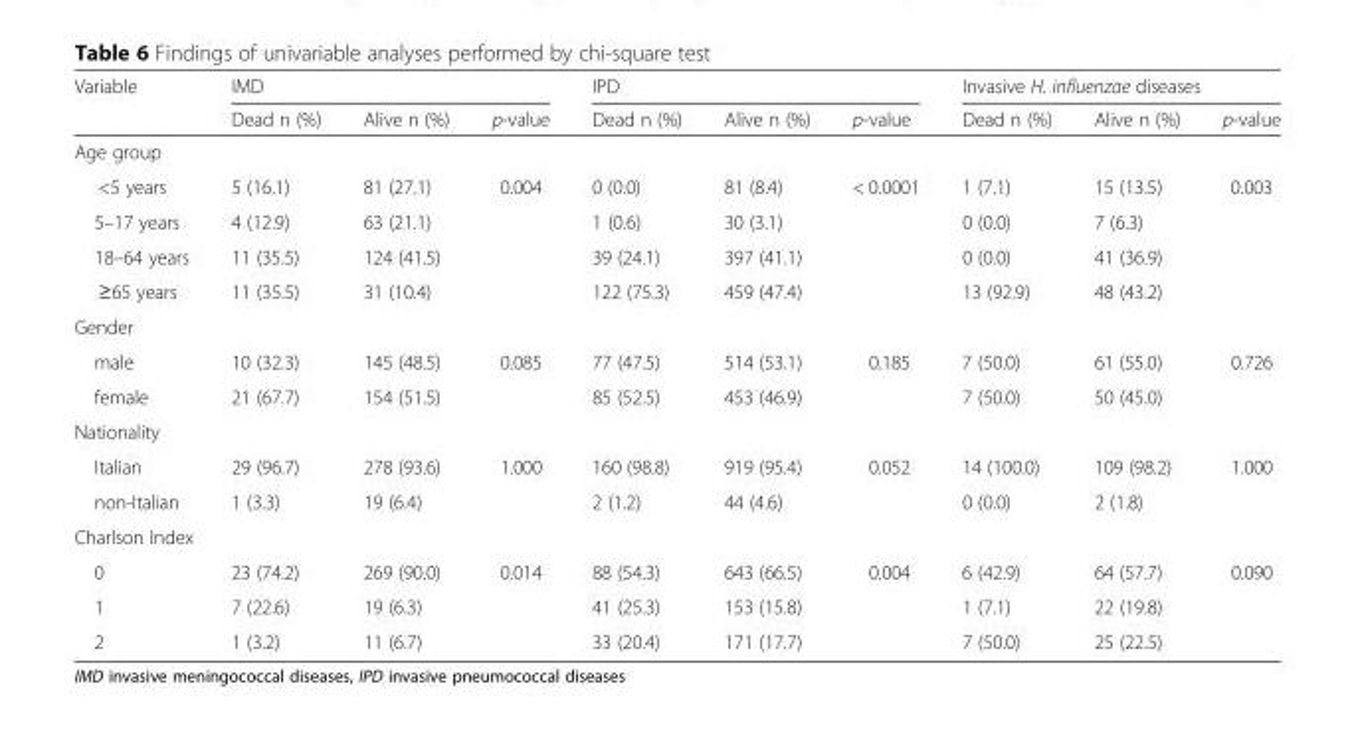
<table><thead><tr><td rowspan="2">Variable</td><td colspan="3">IMD</td><td colspan="3">IPD</td><td colspan="3">Invasive H. influenzae diseases</td></tr><tr><td>Dead n (%)</td><td>Alive n (%)</td><td>p-value</td><td>Dead n (%)</td><td>Alive n (%)</td><td>p-value</td><td>Dead n (%)</td><td>Alive n (%)</td><td>p-value</td></tr></thead><tbody><tr><td colspan="10">Age group</td></tr><tr><td>&lt;5 years</td><td>5 (16.1)</td><td>81 (27.1)</td><td rowspan="4">0.004</td><td>0 (0.0)</td><td>81 (8.4)</td><td rowspan="4">&lt; 0.0001</td><td>1 (7.1)</td><td>15 (13.5)</td><td rowspan="4">0.003</td></tr><tr><td>5–17 years</td><td>4 (12.9)</td><td>63 (21.1)</td><td>1 (0.6)</td><td>30 (3.1)</td><td>0 (0.0)</td><td>7 (6.3)</td></tr><tr><td>18–64 years</td><td>11 (35.5)</td><td>124 (41.5)</td><td>39 (24.1)</td><td>397 (41.1)</td><td>0 (0.0)</td><td>41 (36.9)</td></tr><tr><td>≥65 years</td><td>11 (35.5)</td><td>31 (10.4)</td><td>122 (75.3)</td><td>459 (47.4)</td><td>13 (92.9)</td><td>48 (43.2)</td></tr><tr><td colspan="10">Gender</td></tr><tr><td>male</td><td>10 (32.3)</td><td>145 (48.5)</td><td rowspan="2">0.085</td><td>77 (47.5)</td><td>514 (53.1)</td><td rowspan="2">0.185</td><td>7 (50.0)</td><td>61 (55.0)</td><td rowspan="2">0.726</td></tr><tr><td>female</td><td>21 (67.7)</td><td>154 (51.5)</td><td>85 (52.5)</td><td>453 (46.9)</td><td>7 (50.0)</td><td>50 (45.0)</td></tr><tr><td colspan="10">Nationality</td></tr><tr><td>Italian</td><td>29 (96.7)</td><td>278 (93.6)</td><td rowspan="2">1.000</td><td>160 (98.8)</td><td>919 (95.4)</td><td rowspan="2">0.052</td><td>14 (100.0)</td><td>109 (98.2)</td><td rowspan="2">1.000</td></tr><tr><td>non-Italian</td><td>1 (3.3)</td><td>19 (6.4)</td><td>2 (1.2)</td><td>44 (4.6)</td><td>0 (0.0)</td><td>2 (1.8)</td></tr><tr><td colspan="10">Charlson Index</td></tr><tr><td>0</td><td>23 (74.2)</td><td>269 (90.0)</td><td rowspan="3">0.014</td><td>88 (54.3)</td><td>643 (66.5)</td><td rowspan="3">0.004</td><td>6 (42.9)</td><td>64 (57.7)</td><td rowspan="3">0.090</td></tr><tr><td>1</td><td>7 (22.6)</td><td>19 (6.3)</td><td>41 (25.3)</td><td>153 (15.8)</td><td>1 (7.1)</td><td>22 (19.8)</td></tr><tr><td>2</td><td>1 (3.2)</td><td>11 (6.7)</td><td>33 (20.4)</td><td>171 (17.7)</td><td>7 (50.0)</td><td>25 (22.5)</td></tr></tbody></table>